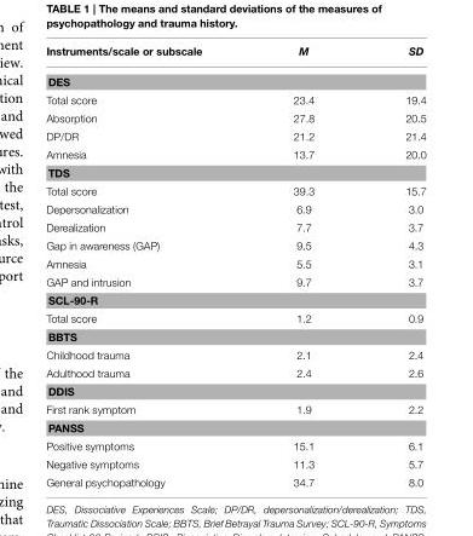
<table><thead><tr><td>Instruments/scale or subscale</td><td>M</td><td>SD</td></tr></thead><tbody><tr><td colspan="3">DES</td></tr><tr><td>Total score</td><td>23.4</td><td>19.4</td></tr><tr><td>Absorption</td><td>27.8</td><td>20.5</td></tr><tr><td>DP/DR</td><td>21.2</td><td>21.4</td></tr><tr><td>Amnesia</td><td>13.7</td><td>20.0</td></tr><tr><td colspan="3">TDS</td></tr><tr><td>Total score</td><td>39.3</td><td>15.7</td></tr><tr><td>Depersonalization</td><td>6.9</td><td>3.0</td></tr><tr><td>Derealization</td><td>7.7</td><td>3.7</td></tr><tr><td>Gap in awareness (GAP)</td><td>9.5</td><td>4.3</td></tr><tr><td>Amnesia</td><td>5.5</td><td>3.1</td></tr><tr><td>GAP and intrusion</td><td>9.7</td><td>3.7</td></tr><tr><td colspan="3">SCL-90-R</td></tr><tr><td>Total score</td><td>1.2</td><td>0.9</td></tr><tr><td colspan="3">BBTS</td></tr><tr><td>Childhood trauma</td><td>2.1</td><td>2.4</td></tr><tr><td>Adulthood trauma</td><td>2.4</td><td>2.6</td></tr><tr><td colspan="3">DDIS</td></tr><tr><td>First rank symptom</td><td>1.9</td><td>2.2</td></tr><tr><td colspan="3">PANSS</td></tr><tr><td>Positive symptoms</td><td>15.1</td><td>6.1</td></tr><tr><td>Negative symptoms</td><td>11.3</td><td>5.7</td></tr><tr><td>General psychopathology</td><td>34.7</td><td>8.0</td></tr></tbody></table>